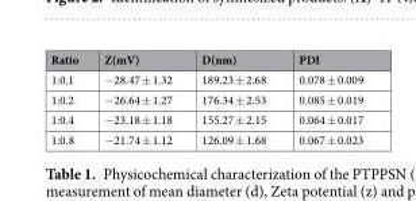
<table><thead><tr><td>Ratio</td><td>Z(mV)</td><td>D(nm)</td><td>PDI</td></tr></thead><tbody><tr><td>1:0.1</td><td>−28.47 ± 1.32</td><td>189.23 ± 2.68</td><td>0.078 ± 0.009</td></tr><tr><td>1:0.2</td><td>−26.64 ± 1.27</td><td>176.34 ± 2.53</td><td>0.085 ± 0.019</td></tr><tr><td>1:0.4</td><td>−23.18 ± 1.18</td><td>155.27 ± 2.15</td><td>0.064 ± 0.017</td></tr><tr><td>1:0.8</td><td>−21.74 ± 1.12</td><td>126.09 ± 1.68</td><td>0.067 ± 0.023</td></tr></tbody></table>